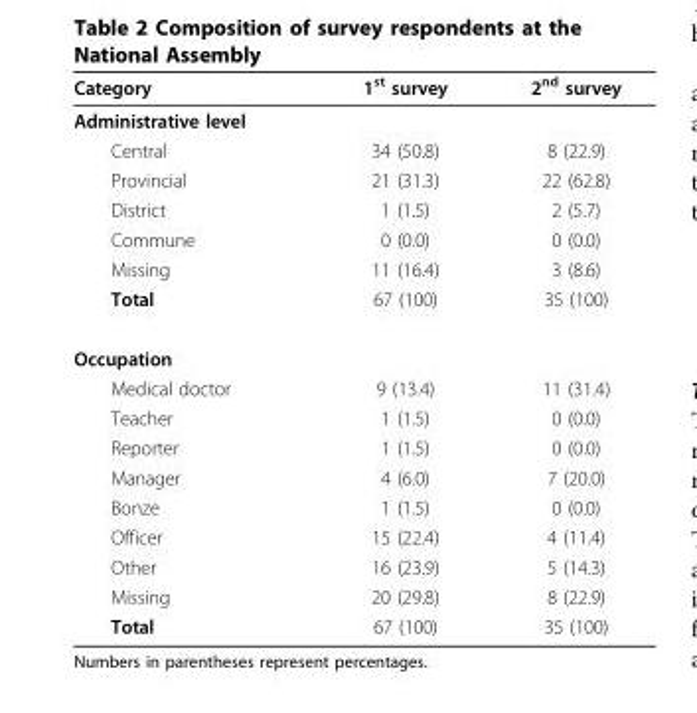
<table><thead><tr><td>Category</td><td>1<sup>st</sup> survey</td><td>2<sup>nd</sup> survey</td></tr></thead><tbody><tr><td colspan="3">Administrative level</td></tr><tr><td>Central</td><td>34 (50.8)</td><td>8 (22.9)</td></tr><tr><td>Provincial</td><td>21 (31.3)</td><td>22 (62.8)</td></tr><tr><td>District</td><td>1 (1.5)</td><td>2 (5.7)</td></tr><tr><td>Commune</td><td>0 (0.0)</td><td>0 (0.0)</td></tr><tr><td>Missing</td><td>11 (16.4)</td><td>3 (8.6)</td></tr><tr><td>Total</td><td>67 (100)</td><td>35 (100)</td></tr><tr><td colspan="3">Occupation</td></tr><tr><td>Medical doctor</td><td>9 (13.4)</td><td>11 (31.4)</td></tr><tr><td>Teacher</td><td>1 (1.5)</td><td>0 (0.0)</td></tr><tr><td>Reporter</td><td>1 (1.5)</td><td>0 (0.0)</td></tr><tr><td>Manager</td><td>4 (6.0)</td><td>7 (20.0)</td></tr><tr><td>Bonze</td><td>1 (1.5)</td><td>0 (0.0)</td></tr><tr><td>Officer</td><td>15 (22.4)</td><td>4 (11.4)</td></tr><tr><td>Other</td><td>16 (23.9)</td><td>5 (14.3)</td></tr><tr><td>Missing</td><td>20 (29.8)</td><td>8 (22.9)</td></tr><tr><td>Total</td><td>67 (100)</td><td>35 (100)</td></tr></tbody></table>